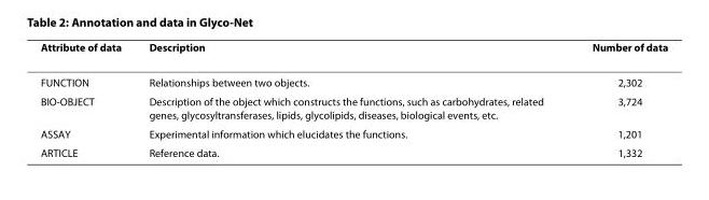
<table><thead><tr><td>Attribute of data</td><td>Description</td><td>Number of data</td></tr></thead><tbody><tr><td>FUNCTION</td><td>Relationships between two objects.</td><td>2,302</td></tr><tr><td>BIO-OBJECT</td><td>Description of the object which constructs the functions, such as carbohydrates, related genes, glycosyltransferases, lipids, glycolipids, diseases, biological events, etc.</td><td>3,724</td></tr><tr><td>ASSAY</td><td>Experimental information which elucidates the functions.</td><td>1,201</td></tr><tr><td>ARTICLE</td><td>Reference data.</td><td>1,332</td></tr></tbody></table>